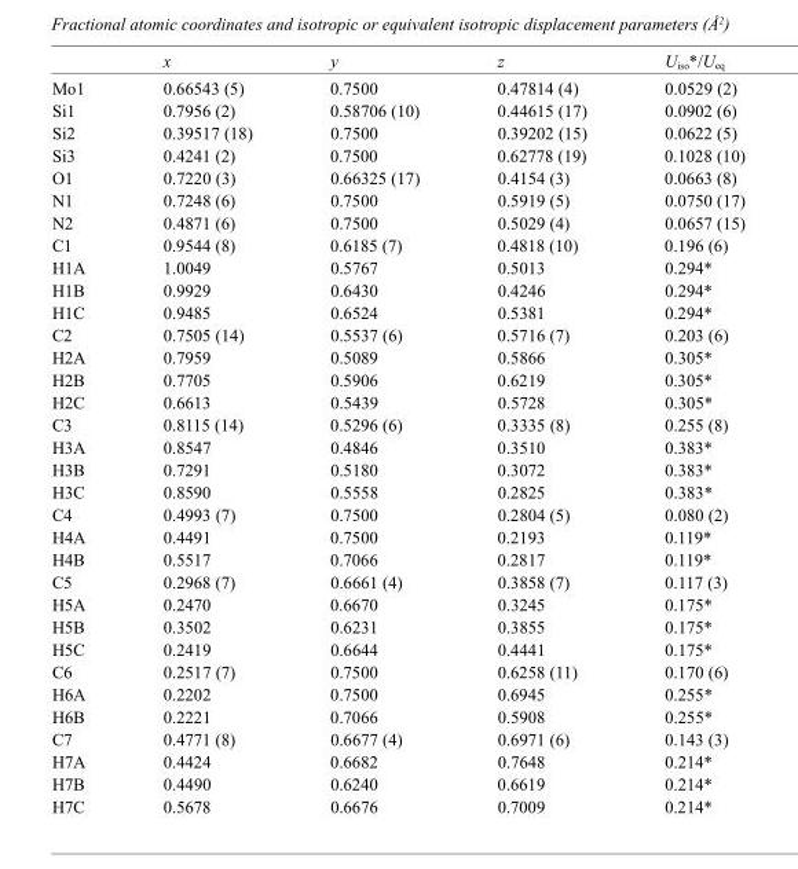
<table><thead><tr><td></td><td>x</td><td>y</td><td>z</td><td>U<sub>iso</sub>*/U<sub>eq</sub></td></tr></thead><tbody><tr><td>Mo1</td><td>0.66543 (5)</td><td>0.7500</td><td>0.47814 (4)</td><td>0.0529 (2)</td></tr><tr><td>Si1</td><td>0.7956 (2)</td><td>0.58706 (10)</td><td>0.44615 (17)</td><td>0.0902 (6)</td></tr><tr><td>Si2</td><td>0.39517 (18)</td><td>0.7500</td><td>0.39202 (15)</td><td>0.0622 (5)</td></tr><tr><td>Si3</td><td>0.4241 (2)</td><td>0.7500</td><td>0.62778 (19)</td><td>0.1028 (10)</td></tr><tr><td>O1</td><td>0.7220 (3)</td><td>0.66325 (17)</td><td>0.4154 (3)</td><td>0.0663 (8)</td></tr><tr><td>N1</td><td>0.7248 (6)</td><td>0.7500</td><td>0.5919 (5)</td><td>0.0750 (17)</td></tr><tr><td>N2</td><td>0.4871 (6)</td><td>0.7500</td><td>0.5029 (4)</td><td>0.0657 (15)</td></tr><tr><td>C1</td><td>0.9544 (8)</td><td>0.6185 (7)</td><td>0.4818 (10)</td><td>0.196 (6)</td></tr><tr><td>H1A</td><td>1.0049</td><td>0.5767</td><td>0.5013</td><td>0.294*</td></tr><tr><td>H1B</td><td>0.9929</td><td>0.6430</td><td>0.4246</td><td>0.294*</td></tr><tr><td>H1C</td><td>0.9485</td><td>0.6524</td><td>0.5381</td><td>0.294*</td></tr><tr><td>C2</td><td>0.7505 (14)</td><td>0.5537 (6)</td><td>0.5716 (7)</td><td>0.203 (6)</td></tr><tr><td>H2A</td><td>0.7959</td><td>0.5089</td><td>0.5866</td><td>0.305*</td></tr><tr><td>H2B</td><td>0.7705</td><td>0.5906</td><td>0.6219</td><td>0.305*</td></tr><tr><td>H2C</td><td>0.6613</td><td>0.5439</td><td>0.5728</td><td>0.305*</td></tr><tr><td>C3</td><td>0.8115 (14)</td><td>0.5296 (6)</td><td>0.3335 (8)</td><td>0.255 (8)</td></tr><tr><td>H3A</td><td>0.8547</td><td>0.4846</td><td>0.3510</td><td>0.383*</td></tr><tr><td>H3B</td><td>0.7291</td><td>0.5180</td><td>0.3072</td><td>0.383*</td></tr><tr><td>H3C</td><td>0.8590</td><td>0.5558</td><td>0.2825</td><td>0.383*</td></tr><tr><td>C4</td><td>0.4993 (7)</td><td>0.7500</td><td>0.2804 (5)</td><td>0.080 (2)</td></tr><tr><td>H4A</td><td>0.4491</td><td>0.7500</td><td>0.2193</td><td>0.119*</td></tr><tr><td>H4B</td><td>0.5517</td><td>0.7066</td><td>0.2817</td><td>0.119*</td></tr><tr><td>C5</td><td>0.2968 (7)</td><td>0.6661 (4)</td><td>0.3858 (7)</td><td>0.117 (3)</td></tr><tr><td>H5A</td><td>0.2470</td><td>0.6670</td><td>0.3245</td><td>0.175*</td></tr><tr><td>H5B</td><td>0.3502</td><td>0.6231</td><td>0.3855</td><td>0.175*</td></tr><tr><td>H5C</td><td>0.2419</td><td>0.6644</td><td>0.4441</td><td>0.175*</td></tr><tr><td>C6</td><td>0.2517 (7)</td><td>0.7500</td><td>0.6258 (11)</td><td>0.170 (6)</td></tr><tr><td>H6A</td><td>0.2202</td><td>0.7500</td><td>0.6945</td><td>0.255*</td></tr><tr><td>H6B</td><td>0.2221</td><td>0.7066</td><td>0.5908</td><td>0.255*</td></tr><tr><td>C7</td><td>0.4771 (8)</td><td>0.6677 (4)</td><td>0.6971 (6)</td><td>0.143 (3)</td></tr><tr><td>H7A</td><td>0.4424</td><td>0.6682</td><td>0.7648</td><td>0.214*</td></tr><tr><td>H7B</td><td>0.4490</td><td>0.6240</td><td>0.6619</td><td>0.214*</td></tr><tr><td>H7C</td><td>0.5678</td><td>0.6676</td><td>0.7009</td><td>0.214*</td></tr></tbody></table>